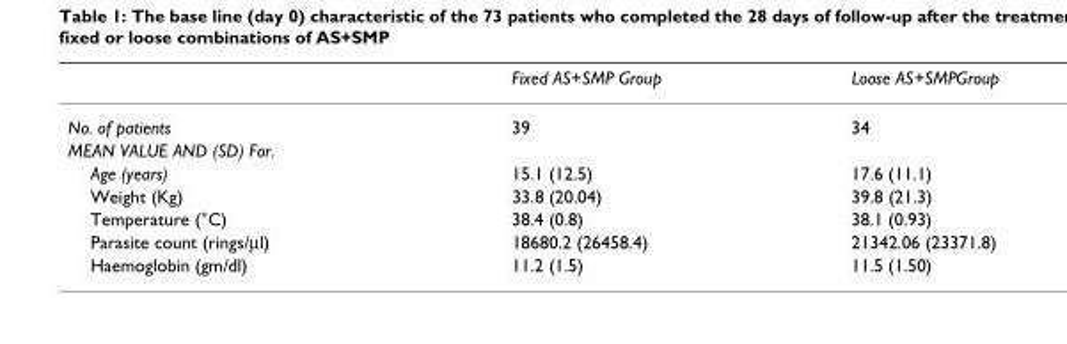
<table><thead><tr><td></td><td>Fixed AS+SMP Group</td><td>Loose AS+SMPGroup</td></tr></thead><tbody><tr><td>No. of patients</td><td>39</td><td>34</td></tr><tr><td colspan="3">MEAN VALUE AND (SD) For.</td></tr><tr><td>Age (years)</td><td>15.1 (12.5)</td><td>17.6 (11.1)</td></tr><tr><td>Weight (Kg)</td><td>33.8 (20.04)</td><td>39.8 (21.3)</td></tr><tr><td>Temperature (°C)</td><td>38.4 (0.8)</td><td>38.1 (0.93)</td></tr><tr><td>Parasite count (rings/μl)</td><td>18680.2 (26458.4)</td><td>21342.06 (23371.8)</td></tr><tr><td>Haemoglobin (gm/dl)</td><td>11.2 (1.5)</td><td>11.5 (1.50)</td></tr></tbody></table>